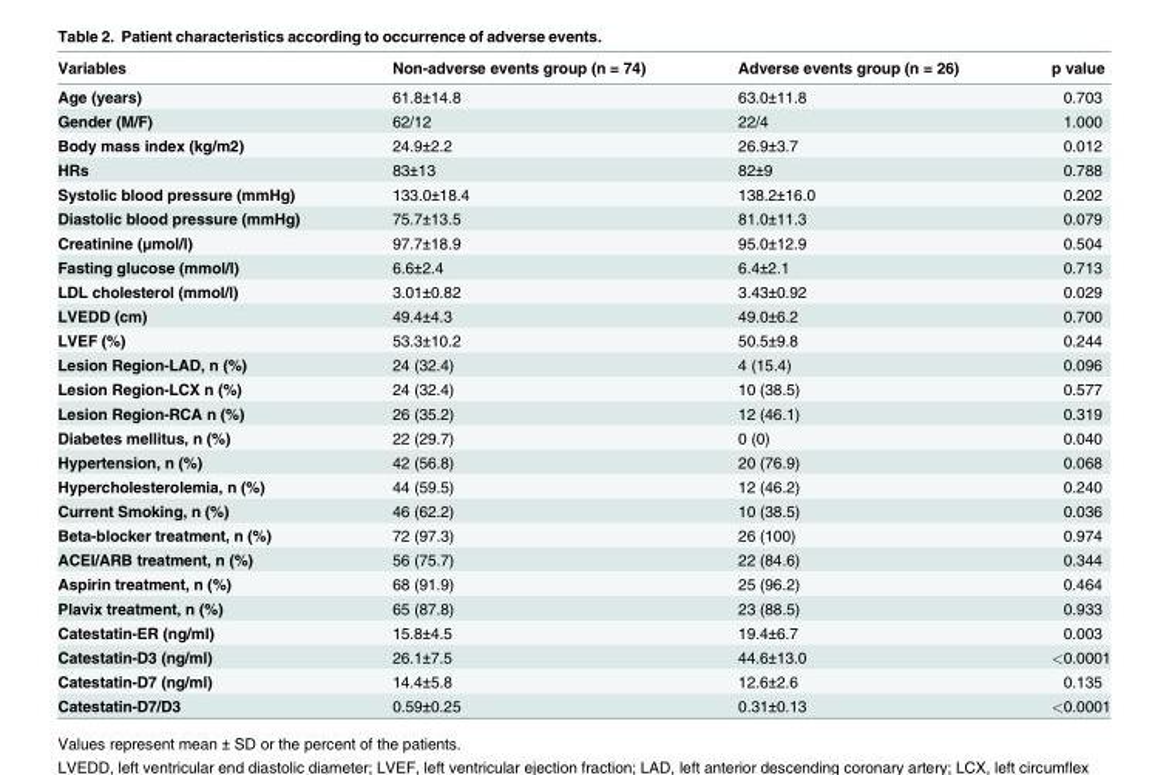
<table><thead><tr><td>Variables</td><td>Non-adverse events group (n = 74)</td><td>Adverse events group (n = 26)</td><td>p value</td></tr></thead><tbody><tr><td>Age (years)</td><td>61.8±14.8</td><td>63.0±11.8</td><td>0.703</td></tr><tr><td>Gender (M/F)</td><td>62/12</td><td>22/4</td><td>1.000</td></tr><tr><td>Body mass index (kg/m2)</td><td>24.9±2.2</td><td>26.9±3.7</td><td>0.012</td></tr><tr><td>HRs</td><td>83±13</td><td>82±9</td><td>0.788</td></tr><tr><td>Systolic blood pressure (mmHg)</td><td>133.0±18.4</td><td>138.2±16.0</td><td>0.202</td></tr><tr><td>Diastolic blood pressure (mmHg)</td><td>75.7±13.5</td><td>81.0±11.3</td><td>0.079</td></tr><tr><td>Creatinine (μmol/l)</td><td>97.7±18.9</td><td>95.0±12.9</td><td>0.504</td></tr><tr><td>Fasting glucose (mmol/l)</td><td>6.6±2.4</td><td>6.4±2.1</td><td>0.713</td></tr><tr><td>LDL cholesterol (mmol/l)</td><td>3.01±0.82</td><td>3.43±0.92</td><td>0.029</td></tr><tr><td>LVEDD (cm)</td><td>49.4±4.3</td><td>49.0±6.2</td><td>0.700</td></tr><tr><td>LVEF (%)</td><td>53.3±10.2</td><td>50.5±9.8</td><td>0.244</td></tr><tr><td>Lesion Region-LAD, n (%)</td><td>24 (32.4)</td><td>4 (15.4)</td><td>0.096</td></tr><tr><td>Lesion Region-LCX n (%)</td><td>24 (32.4)</td><td>10 (38.5)</td><td>0.577</td></tr><tr><td>Lesion Region-RCA n (%)</td><td>26 (35.2)</td><td>12 (46.1)</td><td>0.319</td></tr><tr><td>Diabetes mellitus, n (%)</td><td>22 (29.7)</td><td>0 (0)</td><td>0.040</td></tr><tr><td>Hypertension, n (%)</td><td>42 (56.8)</td><td>20 (76.9)</td><td>0.068</td></tr><tr><td>Hypercholesterolemia, n (%)</td><td>44 (59.5)</td><td>12 (46.2)</td><td>0.240</td></tr><tr><td>Current Smoking, n (%)</td><td>46 (62.2)</td><td>10 (38.5)</td><td>0.036</td></tr><tr><td>Beta-blocker treatment, n (%)</td><td>72 (97.3)</td><td>26 (100)</td><td>0.974</td></tr><tr><td>ACEI/ARB treatment, n (%)</td><td>56 (75.7)</td><td>22 (84.6)</td><td>0.344</td></tr><tr><td>Aspirin treatment, n (%)</td><td>68 (91.9)</td><td>25 (96.2)</td><td>0.464</td></tr><tr><td>Plavix treatment, n (%)</td><td>65 (87.8)</td><td>23 (88.5)</td><td>0.933</td></tr><tr><td>Catestatin-ER (ng/ml)</td><td>15.8±4.5</td><td>19.4±6.7</td><td>0.003</td></tr><tr><td>Catestatin-D3 (ng/ml)</td><td>26.1±7.5</td><td>44.6±13.0</td><td>&lt;0.0001</td></tr><tr><td>Catestatin-D7 (ng/ml)</td><td>14.4±5.8</td><td>12.6±2.6</td><td>0.135</td></tr><tr><td>Catestatin-D7/D3</td><td>0.59±0.25</td><td>0.31±0.13</td><td>&lt;0.0001</td></tr></tbody></table>